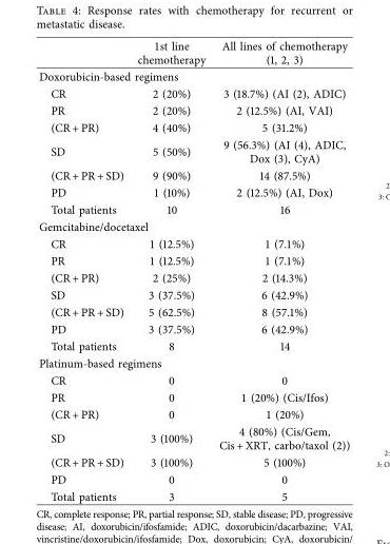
<table><thead><tr><td></td><td>1st line chemotherapy</td><td>All lines of chemotherapy (1, 2, 3)</td></tr></thead><tbody><tr><td colspan="3">Doxorubicin-based regimens</td></tr><tr><td>CR</td><td>2 (20%)</td><td>3 (18.7%) (AI (2), ADIC)</td></tr><tr><td>PR</td><td>2 (20%)</td><td>2 (12.5%) (AI, VAI)</td></tr><tr><td>(CR + PR)</td><td>4 (40%)</td><td>5 (31.2%)</td></tr><tr><td>SD</td><td>5 (50%)</td><td>9 (56.3%) (AI (4), ADIC, Dox (3), CyA)</td></tr><tr><td>(CR + PR + SD)</td><td>9 (90%)</td><td>14 (87.5%)</td></tr><tr><td>PD</td><td>1 (10%)</td><td>2 (12.5%) (AI, Dox)</td></tr><tr><td>Total patients</td><td>10</td><td>16</td></tr><tr><td colspan="3">Gemcitabine/docetaxel</td></tr><tr><td>CR</td><td>1 (12.5%)</td><td>1 (7.1%)</td></tr><tr><td>PR</td><td>1 (12.5%)</td><td>1 (7.1%)</td></tr><tr><td>(CR + PR)</td><td>2 (25%)</td><td>2 (14.3%)</td></tr><tr><td>SD</td><td>3 (37.5%)</td><td>6 (42.9%)</td></tr><tr><td>(CR + PR + SD)</td><td>5 (62.5%)</td><td>8 (57.1%)</td></tr><tr><td>PD</td><td>3 (37.5%)</td><td>6 (42.9%)</td></tr><tr><td>Total patients</td><td>8</td><td>14</td></tr><tr><td colspan="3">Platinum-based regimens</td></tr><tr><td>CR</td><td>0</td><td>0</td></tr><tr><td>PR</td><td>0</td><td>1 (20%) (Cis/Ifos)</td></tr><tr><td>(CR + PR)</td><td>0</td><td>1 (20%)</td></tr><tr><td>SD</td><td>3 (100%)</td><td>4 (80%) (Cis/Gem, Cis + XRT, carbo/taxol (2))</td></tr><tr><td>(CR + PR + SD)</td><td>3 (100%)</td><td>5 (100%)</td></tr><tr><td>PD</td><td>0</td><td>0</td></tr><tr><td>Total patients</td><td>3</td><td>5</td></tr></tbody></table>